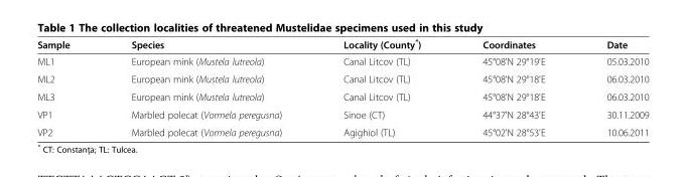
<table><thead><tr><td>Sample</td><td>Species</td><td>Locality (County*)</td><td>Coordinates</td><td>Date</td></tr></thead><tbody><tr><td>ML1</td><td>European mink (Mustela lutreola)</td><td>Canal Litcov (TL)</td><td>45°08&#x27;N 29°19&#x27;E</td><td>05.03.2010</td></tr><tr><td>ML2</td><td>European mink (Mustela lutreola)</td><td>Canal Litcov (TL)</td><td>45°08&#x27;N 29°18&#x27;E</td><td>06.03.2010</td></tr><tr><td>ML3</td><td>European mink (Mustela lutreola)</td><td>Canal Litcov (TL)</td><td>45°08&#x27;N 29°18&#x27;E</td><td>06.03.2010</td></tr><tr><td>VP1</td><td>Marbled polecat (Vormela peregusna)</td><td>Sinoe (CT)</td><td>44°37&#x27;N 28°43&#x27;E</td><td>30.11.2009</td></tr><tr><td>VP2</td><td>Marbled polecat (Vormela peregusna)</td><td>Agighiol (TL)</td><td>45°02&#x27;N 28°53&#x27;E</td><td>10.06.2011</td></tr></tbody></table>